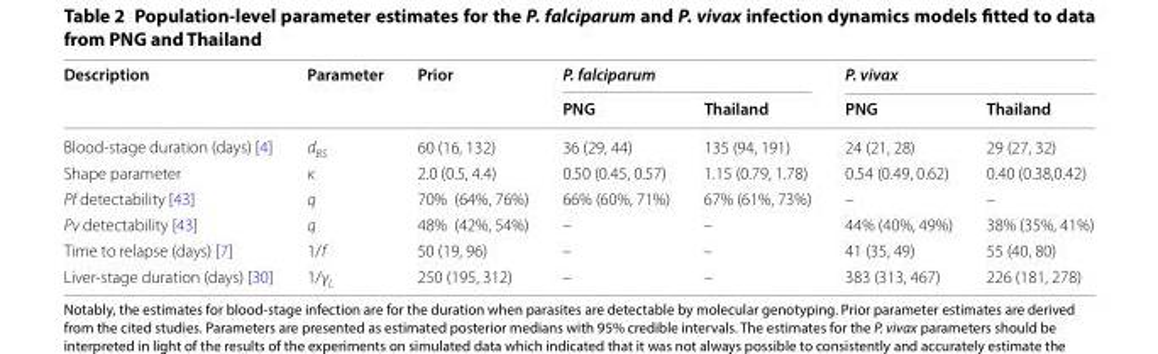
<table><thead><tr><td rowspan="2">Description</td><td rowspan="2">Parameter</td><td rowspan="2">Prior</td><td colspan="2">P. falciparum</td><td colspan="2">P. vivax</td></tr><tr><td>PNG</td><td>Thailand</td><td>PNG</td><td>Thailand</td></tr></thead><tbody><tr><td>Blood-stage duration (days) [4]</td><td>d<sub>BS</sub></td><td>60 (16, 132)</td><td>36 (29, 44)</td><td>135 (94, 191)</td><td>24 (21, 28)</td><td>29 (27, 32)</td></tr><tr><td>Shape parameter</td><td>κ</td><td>2.0 (0.5, 4.4)</td><td>0.50 (0.45, 0.57)</td><td>1.15 (0.79, 1.78)</td><td>0.54 (0.49, 0.62)</td><td>0.40 (0.38,0.42)</td></tr><tr><td>Pf detectability [43]</td><td>q</td><td>70% (64%, 76%)</td><td>66% (60%, 71%)</td><td>67% (61%, 73%)</td><td>–</td><td>–</td></tr><tr><td>Pv detectability [43]</td><td>q</td><td>48% (42%, 54%)</td><td>–</td><td>–</td><td>44% (40%, 49%)</td><td>38% (35%, 41%)</td></tr><tr><td>Time to relapse (days) [7]</td><td>1/f</td><td>50 (19, 96)</td><td>–</td><td>–</td><td>41 (35, 49)</td><td>55 (40, 80)</td></tr><tr><td>Liver-stage duration (days) [30]</td><td>1/γ<sub>L</sub></td><td>250 (195, 312)</td><td>–</td><td>–</td><td>383 (313, 467)</td><td>226 (181, 278)</td></tr></tbody></table>